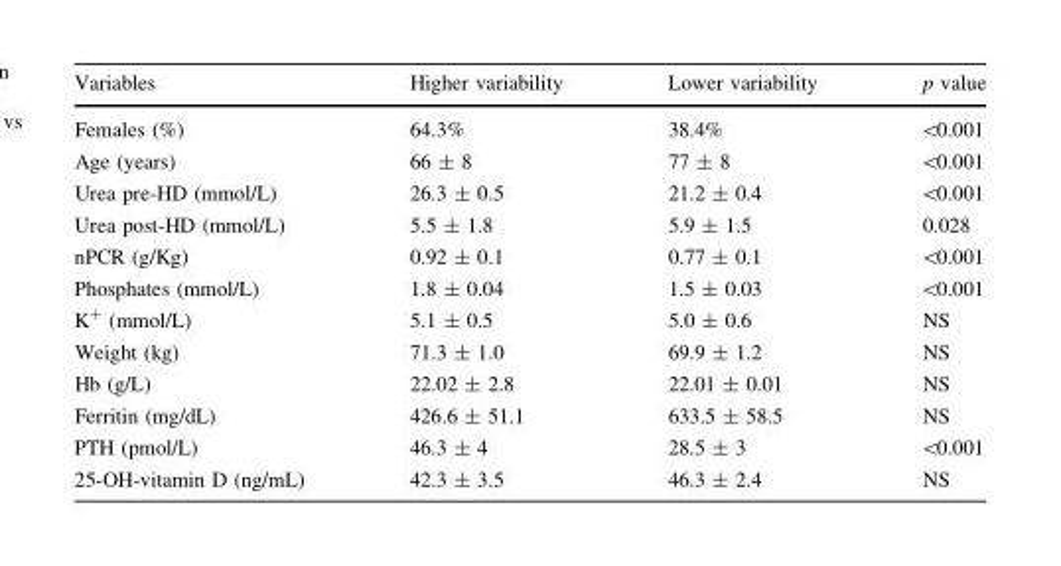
<table><thead><tr><td>Variables</td><td>Higher variability</td><td>Lower variability</td><td>p value</td></tr></thead><tbody><tr><td>Females (%)</td><td>64.3%</td><td>38.4%</td><td>&lt;0.001</td></tr><tr><td>Age (years)</td><td>66 ± 8</td><td>77 ± 8</td><td>&lt;0.001</td></tr><tr><td>Urea pre-HD (mmol/L)</td><td>26.3 ± 0.5</td><td>21.2 ± 0.4</td><td>&lt;0.001</td></tr><tr><td>Urea post-HD (mmol/L)</td><td>5.5 ± 1.8</td><td>5.9 ± 1.5</td><td>0.028</td></tr><tr><td>nPCR (g/Kg)</td><td>0.92 ± 0.1</td><td>0.77 ± 0.1</td><td>&lt;0.001</td></tr><tr><td>Phosphates (mmol/L)</td><td>1.8 ± 0.04</td><td>1.5 ± 0.03</td><td>&lt;0.001</td></tr><tr><td>K<sup>+</sup> (mmol/L)</td><td>5.1 ± 0.5</td><td>5.0 ± 0.6</td><td>NS</td></tr><tr><td>Weight (kg)</td><td>71.3 ± 1.0</td><td>69.9 ± 1.2</td><td>NS</td></tr><tr><td>Hb (g/L)</td><td>22.02 ± 2.8</td><td>22.01 ± 0.01</td><td>NS</td></tr><tr><td>Ferritin (mg/dL)</td><td>426.6 ± 51.1</td><td>633.5 ± 58.5</td><td>NS</td></tr><tr><td>PTH (pmol/L)</td><td>46.3 ± 4</td><td>28.5 ± 3</td><td>&lt;0.001</td></tr><tr><td>25-OH-vitamin D (ng/mL)</td><td>42.3 ± 3.5</td><td>46.3 ± 2.4</td><td>NS</td></tr></tbody></table>